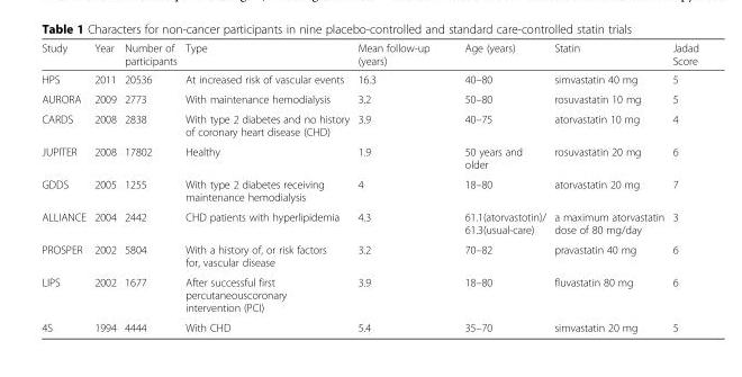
<table><thead><tr><td>Study</td><td>Year</td><td>Number of participants</td><td>Type</td><td>Mean follow-up (years)</td><td>Age (years)</td><td>Statin</td><td>Jadad Score</td></tr></thead><tbody><tr><td>HPS</td><td>2011</td><td>20536</td><td>At increased risk of vascular events</td><td>16.3</td><td>40–80</td><td>simvastatin 40 mg</td><td>5</td></tr><tr><td>AURORA</td><td>2009</td><td>2773</td><td>With maintenance hemodialysis</td><td>3.2</td><td>50–80</td><td>rosuvastatin 10 mg</td><td>5</td></tr><tr><td>CARDS</td><td>2008</td><td>2838</td><td>With type 2 diabetes and no history of coronary heart disease (CHD)</td><td>3.9</td><td>40–75</td><td>atorvastatin 10 mg</td><td>4</td></tr><tr><td>JUPITER</td><td>2008</td><td>17802</td><td>Healthy</td><td>1.9</td><td>50 years and older</td><td>rosuvastatin 20 mg</td><td>6</td></tr><tr><td>GDDS</td><td>2005</td><td>1255</td><td>With type 2 diabetes receiving maintenance hemodialysis</td><td>4</td><td>18–80</td><td>atorvastatin 20 mg</td><td>7</td></tr><tr><td>ALLIANCE</td><td>2004</td><td>2442</td><td>CHD patients with hyperlipidemia</td><td>4.3</td><td>61.1(atorvastotin)/ 61.3(usual-care)</td><td>a maximum atorvastatin dose of 80 mg/day</td><td>3</td></tr><tr><td>PROSPER</td><td>2002</td><td>5804</td><td>With a history of, or risk factors for, vascular disease</td><td>3.2</td><td>70–82</td><td>pravastatin 40 mg</td><td>6</td></tr><tr><td>LIPS</td><td>2002</td><td>1677</td><td>After successful first percutaneouscoronary intervention (PCI)</td><td>3.9</td><td>18–80</td><td>fluvastatin 80 mg</td><td>6</td></tr><tr><td>4S</td><td>1994</td><td>4444</td><td>With CHD</td><td>5.4</td><td>35–70</td><td>simvastatin 20 mg</td><td>5</td></tr></tbody></table>